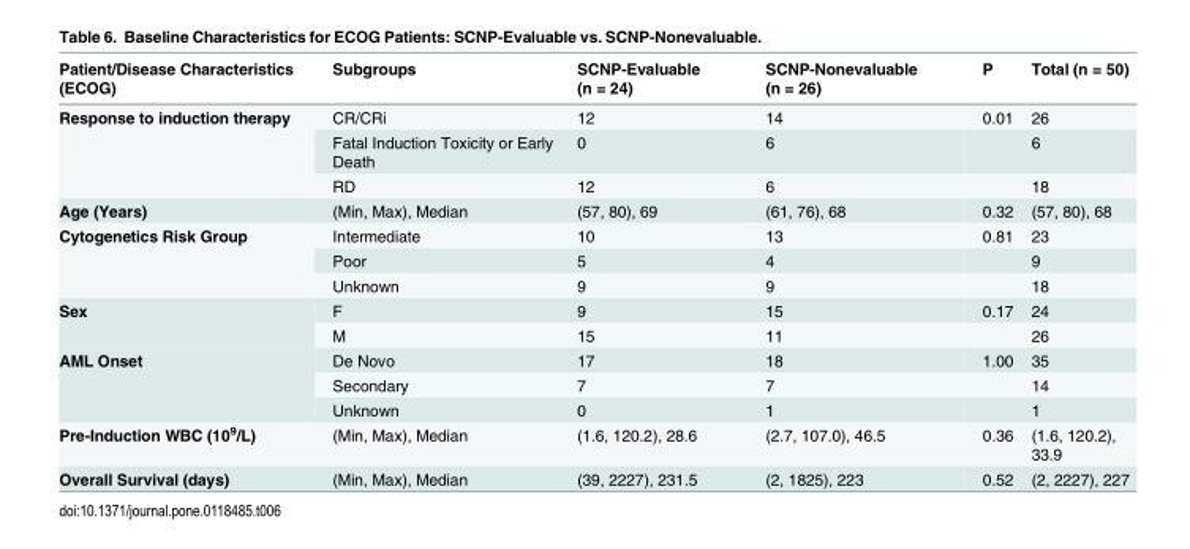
<table><thead><tr><td>Patient/Disease Characteristics (ECOG)</td><td>Subgroups</td><td>SCNP-Evaluable (n = 24)</td><td>SCNP-Nonevaluable (n = 26)</td><td>P</td><td>Total (n = 50)</td></tr></thead><tbody><tr><td rowspan="3">Response to induction therapy</td><td>CR/CRi</td><td>12</td><td>14</td><td>0.01</td><td>26</td></tr><tr><td>Fatal Induction Toxicity or Early Death</td><td>0</td><td>6</td><td></td><td>6</td></tr><tr><td>RD</td><td>12</td><td>6</td><td></td><td>18</td></tr><tr><td>Age (Years)</td><td>(Min, Max), Median</td><td>(57, 80), 69</td><td>(61, 76), 68</td><td>0.32</td><td>(57, 80), 68</td></tr><tr><td rowspan="3">Cytogenetics Risk Group</td><td>Intermediate</td><td>10</td><td>13</td><td>0.81</td><td>23</td></tr><tr><td>Poor</td><td>5</td><td>4</td><td></td><td>9</td></tr><tr><td>Unknown</td><td>9</td><td>9</td><td></td><td>18</td></tr><tr><td rowspan="2">Sex</td><td>F</td><td>9</td><td>15</td><td>0.17</td><td>24</td></tr><tr><td>M</td><td>15</td><td>11</td><td></td><td>26</td></tr><tr><td rowspan="3">AML Onset</td><td>De Novo</td><td>17</td><td>18</td><td>1.00</td><td>35</td></tr><tr><td>Secondary</td><td>7</td><td>7</td><td></td><td>14</td></tr><tr><td>Unknown</td><td>0</td><td>1</td><td></td><td>1</td></tr><tr><td>Pre-Induction WBC (10<sup>9</sup>/L)</td><td>(Min, Max), Median</td><td>(1.6, 120.2), 28.6</td><td>(2.7, 107.0), 46.5</td><td>0.36</td><td>(1.6, 120.2), 33.9</td></tr><tr><td>Overall Survival (days)</td><td>(Min, Max), Median</td><td>(39, 2227), 231.5</td><td>(2, 1825), 223</td><td>0.52</td><td>(2, 2227), 227</td></tr></tbody></table>